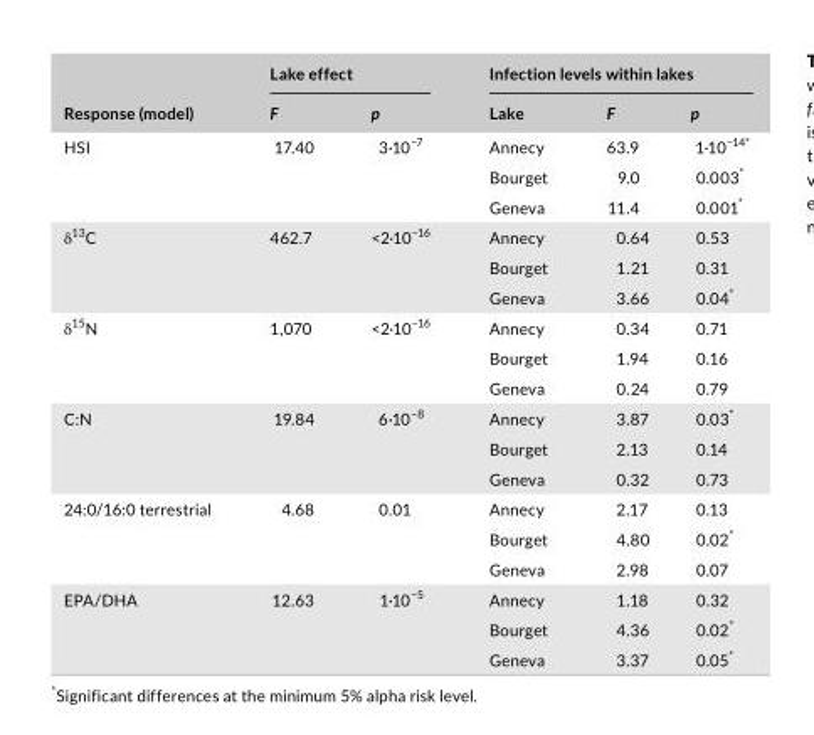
<table><thead><tr><td rowspan="2">Response (model)</td><td colspan="2">Lake effect</td><td colspan="3">Infection levels within lakes</td></tr><tr><td>F</td><td>p</td><td>Lake</td><td>F</td><td>p</td></tr></thead><tbody><tr><td rowspan="3">HSI</td><td rowspan="3">17.40</td><td rowspan="3">3·10<sup>−7</sup></td><td>Annecy</td><td>63.9</td><td>1·10−14*</td></tr><tr><td>Bourget</td><td>9.0</td><td>0.003*</td></tr><tr><td>Geneva</td><td>11.4</td><td>0.001*</td></tr><tr><td rowspan="3">δ<sup>13</sup>C</td><td rowspan="3">462.7</td><td rowspan="3">&lt;2·10<sup>−16</sup></td><td>Annecy</td><td>0.64</td><td>0.53</td></tr><tr><td>Bourget</td><td>1.21</td><td>0.31</td></tr><tr><td>Geneva</td><td>3.66</td><td>0.04*</td></tr><tr><td rowspan="3">δ<sup>15</sup>N</td><td rowspan="3">1,070</td><td rowspan="3">&lt;2·10<sup>−16</sup></td><td>Annecy</td><td>0.34</td><td>0.71</td></tr><tr><td>Bourget</td><td>1.94</td><td>0.16</td></tr><tr><td>Geneva</td><td>0.24</td><td>0.79</td></tr><tr><td rowspan="3">C:N</td><td rowspan="3">19.84</td><td rowspan="3">6·10<sup>−8</sup></td><td>Annecy</td><td>3.87</td><td>0.03*</td></tr><tr><td>Bourget</td><td>2.13</td><td>0.14</td></tr><tr><td>Geneva</td><td>0.32</td><td>0.73</td></tr><tr><td rowspan="3">24:0/16:0 terrestrial</td><td rowspan="3">4.68</td><td rowspan="3">0.01</td><td>Annecy</td><td>2.17</td><td>0.13</td></tr><tr><td>Bourget</td><td>4.80</td><td>0.02*</td></tr><tr><td>Geneva</td><td>2.98</td><td>0.07</td></tr><tr><td rowspan="3">EPA/DHA</td><td rowspan="3">12.63</td><td rowspan="3">1·10<sup>−5</sup></td><td>Annecy</td><td>1.18</td><td>0.32</td></tr><tr><td>Bourget</td><td>4.36</td><td>0.02*</td></tr><tr><td>Geneva</td><td>3.37</td><td>0.05*</td></tr></tbody></table>